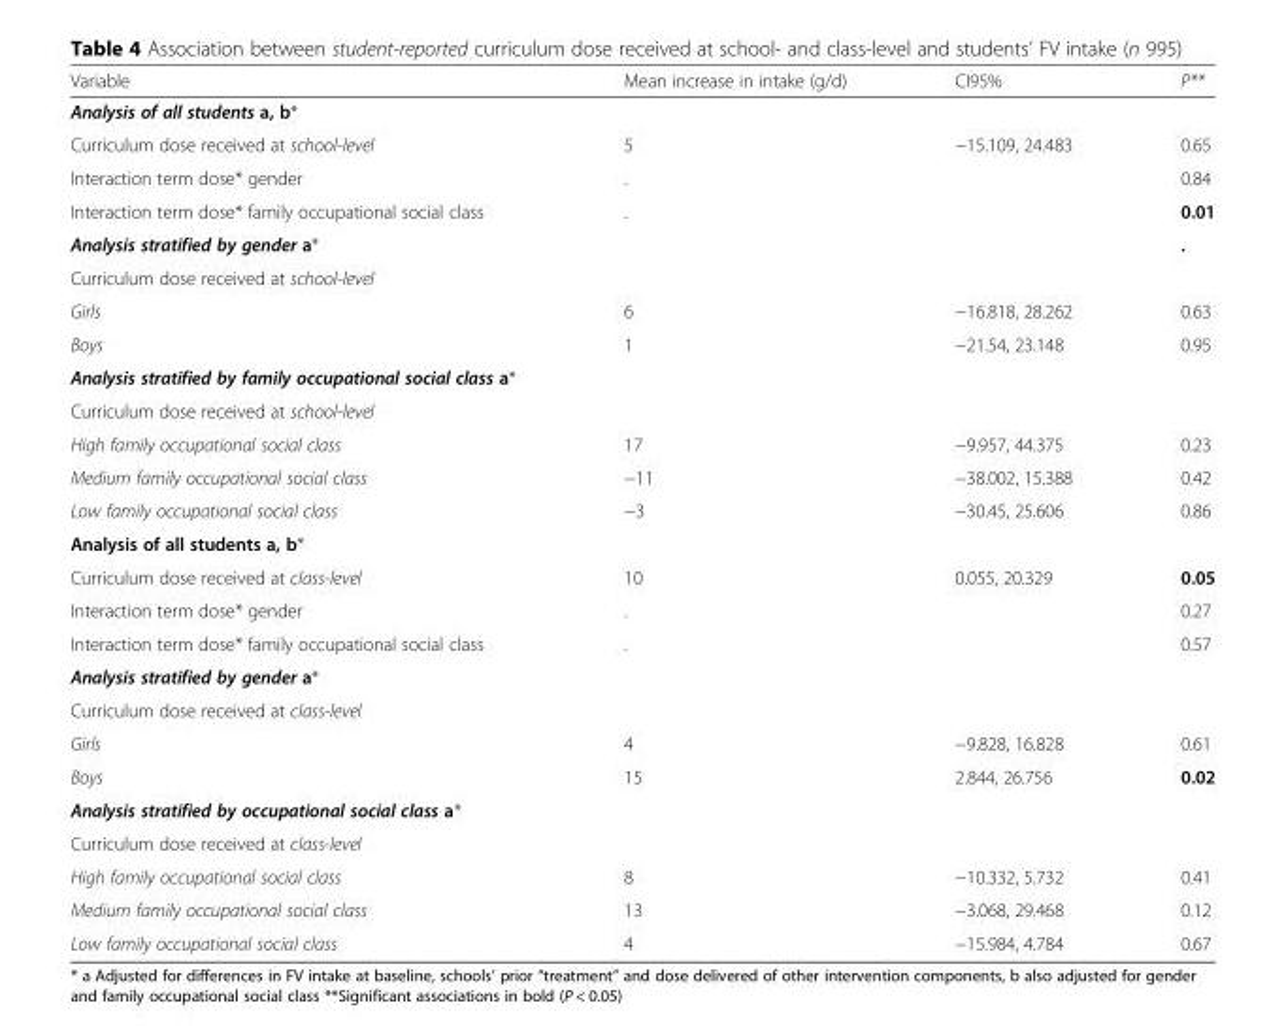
<table><thead><tr><td>Variable</td><td>Mean increase in intake (g/d)</td><td>CI95%</td><td>P**</td></tr></thead><tbody><tr><td colspan="4">Analysis of all students a, b*</td></tr><tr><td>Curriculum dose received at school-level</td><td>5</td><td>−15.109, 24.483</td><td>0.65</td></tr><tr><td>Interaction term dose* gender</td><td>.</td><td></td><td>0.84</td></tr><tr><td>Interaction term dose* family occupational social class</td><td>.</td><td></td><td>0.01</td></tr><tr><td>Analysis stratified by gender a*</td><td></td><td></td><td>.</td></tr><tr><td colspan="4">Curriculum dose received at school-level</td></tr><tr><td>Girls</td><td>6</td><td>−16.818, 28.262</td><td>0.63</td></tr><tr><td>Boys</td><td>1</td><td>−21.54, 23.148</td><td>0.95</td></tr><tr><td colspan="4">Analysis stratified by family occupational social class a*</td></tr><tr><td colspan="4">Curriculum dose received at school-level</td></tr><tr><td>High family occupational social class</td><td>17</td><td>−9.957, 44.375</td><td>0.23</td></tr><tr><td>Medium family occupational social class</td><td>−11</td><td>−38.002, 15.388</td><td>0.42</td></tr><tr><td>Low family occupational social class</td><td>−3</td><td>−30.45, 25.606</td><td>0.86</td></tr><tr><td colspan="4">Analysis of all students a, b*</td></tr><tr><td>Curriculum dose received at class-level</td><td>10</td><td>0.055, 20.329</td><td>0.05</td></tr><tr><td>Interaction term dose* gender</td><td>.</td><td></td><td>0.27</td></tr><tr><td>Interaction term dose* family occupational social class</td><td>.</td><td></td><td>0.57</td></tr><tr><td colspan="4">Analysis stratified by gender a*</td></tr><tr><td colspan="4">Curriculum dose received at class-level</td></tr><tr><td>Girls</td><td>4</td><td>−9.828, 16.828</td><td>0.61</td></tr><tr><td>Boys</td><td>15</td><td>2.844, 26.756</td><td>0.02</td></tr><tr><td colspan="4">Analysis stratified by occupational social class a*</td></tr><tr><td colspan="4">Curriculum dose received at class-level</td></tr><tr><td>High family occupational social class</td><td>8</td><td>−10.332, 5.732</td><td>0.41</td></tr><tr><td>Medium family occupational social class</td><td>13</td><td>−3.068, 29.468</td><td>0.12</td></tr><tr><td>Low family occupational social class</td><td>4</td><td>−15.984, 4.784</td><td>0.67</td></tr></tbody></table>